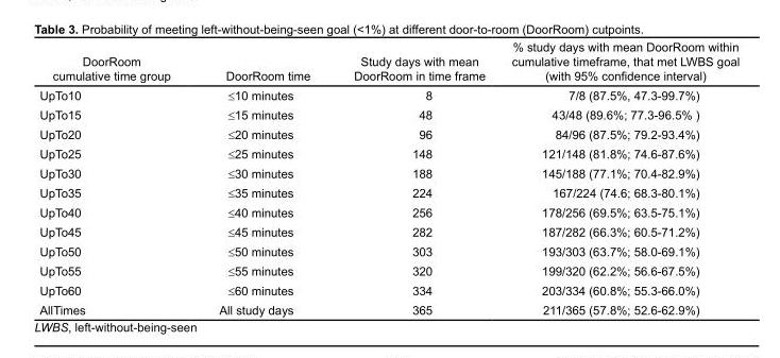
<table><thead><tr><td>DoorRoom cumulative time group</td><td>DoorRoom time</td><td>Study days with mean DoorRoom in time frame</td><td>% study days with mean DoorRoom within cumulative timeframe, that met LWBS goal (with 95% confidence interval)</td></tr></thead><tbody><tr><td>UpTo10</td><td>≤10 minutes</td><td>8</td><td>7/8 (87.5%, 47.3-99.7%)</td></tr><tr><td>UpTo15</td><td>≤15 minutes</td><td>48</td><td>43/48 (89.6%; 77.3-96.5% )</td></tr><tr><td>UpTo20</td><td>≤20 minutes</td><td>96</td><td>84/96 (87.5%; 79.2-93.4%)</td></tr><tr><td>UpTo25</td><td>≤25 minutes</td><td>148</td><td>121/148 (81.8%; 74.6-87.6%)</td></tr><tr><td>UpTo30</td><td>≤30 minutes</td><td>188</td><td>145/188 (77.1%; 70.4-82.9%)</td></tr><tr><td>UpTo35</td><td>≤35 minutes</td><td>224</td><td>167/224 (74.6; 68.3-80.1%)</td></tr><tr><td>UpTo40</td><td>≤40 minutes</td><td>256</td><td>178/256 (69.5%; 63.5-75.1%)</td></tr><tr><td>UpTo45</td><td>≤45 minutes</td><td>282</td><td>187/282 (66.3%; 60.5-71.2%)</td></tr><tr><td>UpTo50</td><td>≤50 minutes</td><td>303</td><td>193/303 (63.7%; 58.0-69.1%)</td></tr><tr><td>UpTo55</td><td>≤55 minutes</td><td>320</td><td>199/320 (62.2%; 56.6-67.5%)</td></tr><tr><td>UpTo60</td><td>≤60 minutes</td><td>334</td><td>203/334 (60.8%; 55.3-66.0%)</td></tr><tr><td>AllTimes</td><td>All study days</td><td>365</td><td>211/365 (57.8%; 52.6-62.9%)</td></tr></tbody></table>